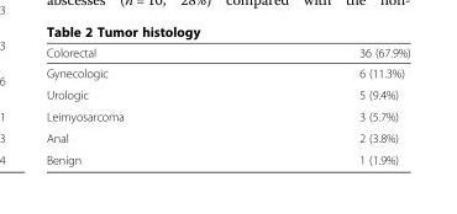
<table><thead><tr><td>Colorectal</td><td>36 (67.9%)</td></tr></thead><tbody><tr><td>Gynecologic</td><td>6 (11.3%)</td></tr><tr><td>Urologic</td><td>5 (9.4%)</td></tr><tr><td>Leimyosarcoma</td><td>3 (5.7%)</td></tr><tr><td>Anal</td><td>2 (3.8%)</td></tr><tr><td>Benign</td><td>1 (1.9%)</td></tr></tbody></table>